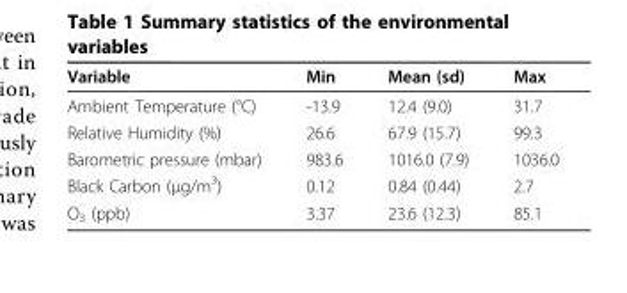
<table><thead><tr><td>Variable</td><td>Min</td><td>Mean (sd)</td><td>Max</td></tr></thead><tbody><tr><td>Ambient Temperature (°C)</td><td>-13.9</td><td>12.4 (9.0)</td><td>31.7</td></tr><tr><td>Relative Humidity (%)</td><td>26.6</td><td>67.9 (15.7)</td><td>99.3</td></tr><tr><td>Barometric pressure (mbar)</td><td>983.6</td><td>1016.0 (7.9)</td><td>1036.0</td></tr><tr><td>Black Carbon (μg/m<sup>3</sup>)</td><td>0.12</td><td>0.84 (0.44)</td><td>2.7</td></tr><tr><td>O<sub>3</sub> (ppb)</td><td>3.37</td><td>23.6 (12.3)</td><td>85.1</td></tr></tbody></table>